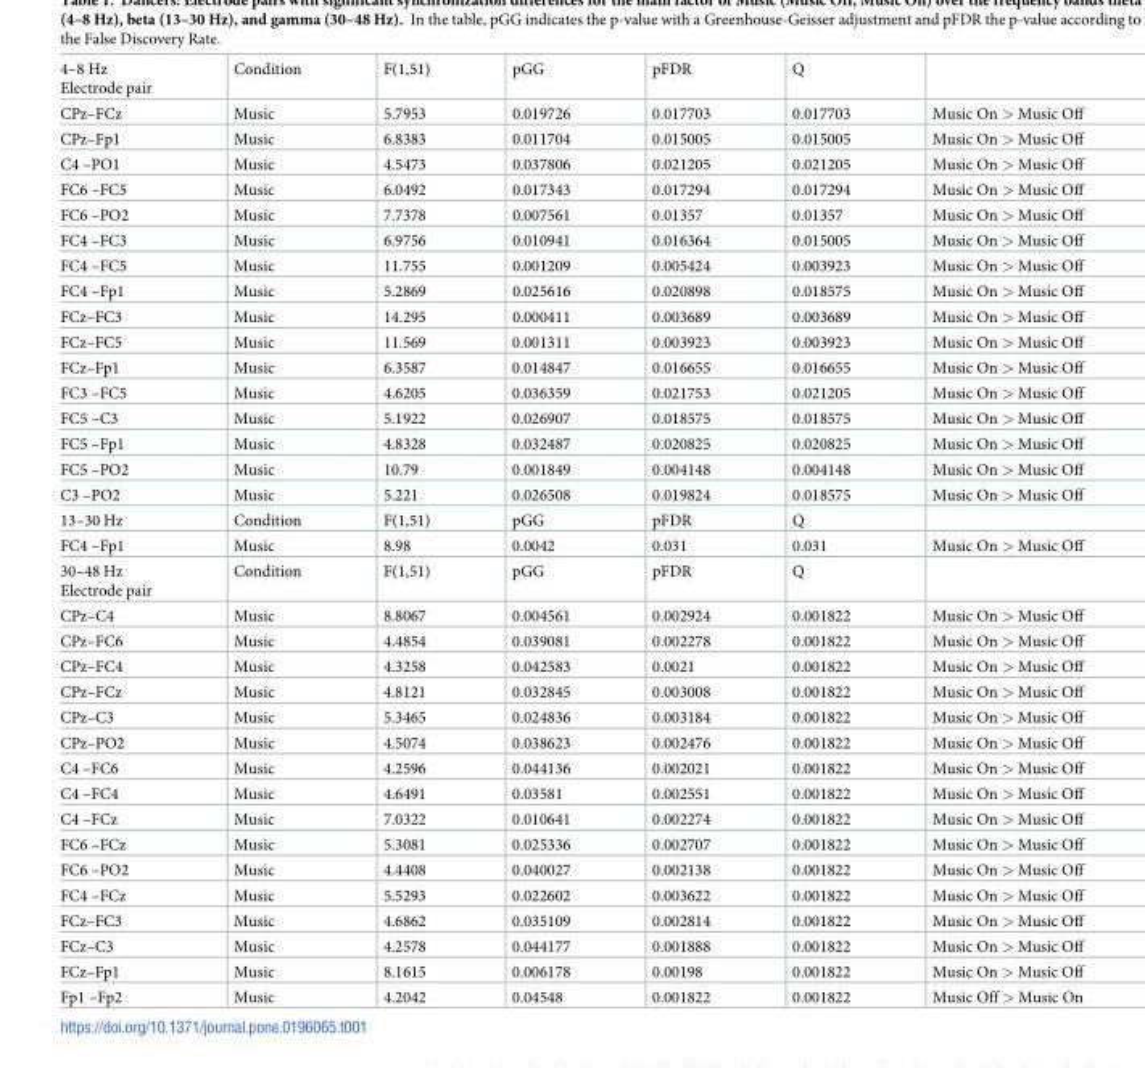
<table><tbody><tr><td>4–8 Hz Electrode pair</td><td>Condition</td><td>F(1,51)</td><td>pGG</td><td>pFDR</td><td>Q</td><td></td></tr><tr><td>CPz–FCz</td><td>Music</td><td>5.7953</td><td>0.019726</td><td>0.017703</td><td>0.017703</td><td>Music On &gt; Music Off</td></tr><tr><td>CPz–Fp1</td><td>Music</td><td>6.8383</td><td>0.011704</td><td>0.015005</td><td>0.015005</td><td>Music On &gt; Music Off</td></tr><tr><td>C4 –PO1</td><td>Music</td><td>4.5473</td><td>0.037806</td><td>0.021205</td><td>0.021205</td><td>Music On &gt; Music Off</td></tr><tr><td>FC6 –FC5</td><td>Music</td><td>6.0492</td><td>0.017343</td><td>0.017294</td><td>0.017294</td><td>Music On &gt; Music Off</td></tr><tr><td>FC6 –PO2</td><td>Music</td><td>7.7378</td><td>0.007561</td><td>0.01357</td><td>0.01357</td><td>Music On &gt; Music Off</td></tr><tr><td>FC4 –FC3</td><td>Music</td><td>6.9756</td><td>0.010941</td><td>0.016364</td><td>0.015005</td><td>Music On &gt; Music Off</td></tr><tr><td>FC4 –FC5</td><td>Music</td><td>11.755</td><td>0.001209</td><td>0.005424</td><td>0.003923</td><td>Music On &gt; Music Off</td></tr><tr><td>FC4 –Fp1</td><td>Music</td><td>5.2869</td><td>0.025616</td><td>0.020898</td><td>0.018575</td><td>Music On &gt; Music Off</td></tr><tr><td>FCz–FC3</td><td>Music</td><td>14.295</td><td>0.000411</td><td>0.003689</td><td>0.003689</td><td>Music On &gt; Music Off</td></tr><tr><td>FCz–FC5</td><td>Music</td><td>11.569</td><td>0.001311</td><td>0.003923</td><td>0.003923</td><td>Music On &gt; Music Off</td></tr><tr><td>FCz–Fp1</td><td>Music</td><td>6.3587</td><td>0.014847</td><td>0.016655</td><td>0.016655</td><td>Music On &gt; Music Off</td></tr><tr><td>FC3 –FC5</td><td>Music</td><td>4.6205</td><td>0.036359</td><td>0.021753</td><td>0.021205</td><td>Music On &gt; Music Off</td></tr><tr><td>FC5 –C3</td><td>Music</td><td>5.1922</td><td>0.026907</td><td>0.018575</td><td>0.018575</td><td>Music On &gt; Music Off</td></tr><tr><td>FC5 –Fp1</td><td>Music</td><td>4.8328</td><td>0.032487</td><td>0.020825</td><td>0.020825</td><td>Music On &gt; Music Off</td></tr><tr><td>FC5 –PO2</td><td>Music</td><td>10.79</td><td>0.001849</td><td>0.004148</td><td>0.004148</td><td>Music On &gt; Music Off</td></tr><tr><td>C3 –PO2</td><td>Music</td><td>5.221</td><td>0.026508</td><td>0.019824</td><td>0.018575</td><td>Music On &gt; Music Off</td></tr><tr><td>13–30 Hz</td><td>Condition</td><td>F(1,51)</td><td>pGG</td><td>pFDR</td><td>Q</td><td></td></tr><tr><td>FC4 –Fp1</td><td>Music</td><td>8.98</td><td>0.0042</td><td>0.031</td><td>0.031</td><td>Music On &gt; Music Off</td></tr><tr><td>30–48 Hz Electrode pair</td><td>Condition</td><td>F(1,51)</td><td>pGG</td><td>pFDR</td><td>Q</td><td></td></tr><tr><td>CPz–C4</td><td>Music</td><td>8.8067</td><td>0.004561</td><td>0.002924</td><td>0.001822</td><td>Music On &gt; Music Off</td></tr><tr><td>CPz–FC6</td><td>Music</td><td>4.4854</td><td>0.039081</td><td>0.002278</td><td>0.001822</td><td>Music On &gt; Music Off</td></tr><tr><td>CPz–FC4</td><td>Music</td><td>4.3258</td><td>0.042583</td><td>0.0021</td><td>0.001822</td><td>Music On &gt; Music Off</td></tr><tr><td>CPz–FCz</td><td>Music</td><td>4.8121</td><td>0.032845</td><td>0.003008</td><td>0.001822</td><td>Music On &gt; Music Off</td></tr><tr><td>CPz–C3</td><td>Music</td><td>5.3465</td><td>0.024836</td><td>0.003184</td><td>0.001822</td><td>Music On &gt; Music Off</td></tr><tr><td>CPz–PO2</td><td>Music</td><td>4.5074</td><td>0.038623</td><td>0.002476</td><td>0.001822</td><td>Music On &gt; Music Off</td></tr><tr><td>C4 –FC6</td><td>Music</td><td>4.2596</td><td>0.044136</td><td>0.002021</td><td>0.001822</td><td>Music On &gt; Music Off</td></tr><tr><td>C4 –FC4</td><td>Music</td><td>4.6491</td><td>0.03581</td><td>0.002551</td><td>0.001822</td><td>Music On &gt; Music Off</td></tr><tr><td>C4 –FCz</td><td>Music</td><td>7.0322</td><td>0.010641</td><td>0.002274</td><td>0.001822</td><td>Music On &gt; Music Off</td></tr><tr><td>FC6 –FCz</td><td>Music</td><td>5.3081</td><td>0.025336</td><td>0.002707</td><td>0.001822</td><td>Music On &gt; Music Off</td></tr><tr><td>FC6 –PO2</td><td>Music</td><td>4.4408</td><td>0.040027</td><td>0.002138</td><td>0.001822</td><td>Music On &gt; Music Off</td></tr><tr><td>FC4 –FCz</td><td>Music</td><td>5.5293</td><td>0.022602</td><td>0.003622</td><td>0.001822</td><td>Music On &gt; Music Off</td></tr><tr><td>FCz–FC3</td><td>Music</td><td>4.6862</td><td>0.035109</td><td>0.002814</td><td>0.001822</td><td>Music On &gt; Music Off</td></tr><tr><td>FCz–C3</td><td>Music</td><td>4.2578</td><td>0.044177</td><td>0.001888</td><td>0.001822</td><td>Music On &gt; Music Off</td></tr><tr><td>FCz–Fp1</td><td>Music</td><td>8.1615</td><td>0.006178</td><td>0.00198</td><td>0.001822</td><td>Music On &gt; Music Off</td></tr><tr><td>Fp1 –Fp2</td><td>Music</td><td>4.2042</td><td>0.04548</td><td>0.001822</td><td>0.001822</td><td>Music Off &gt; Music On</td></tr></tbody></table>